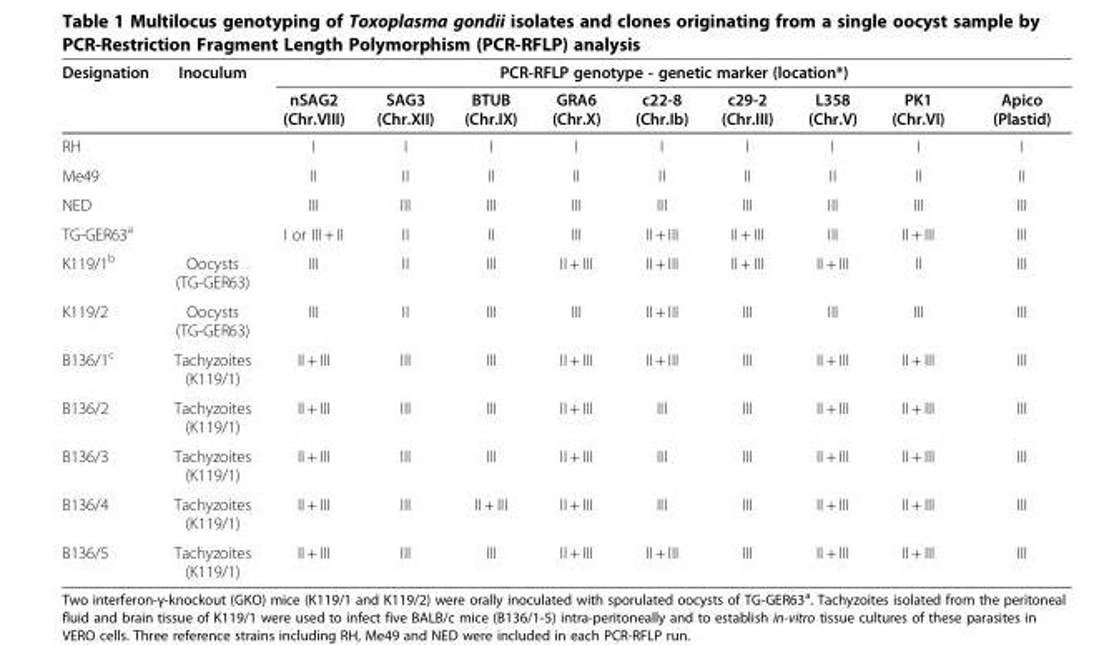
<table><thead><tr><td rowspan="2">Designation</td><td rowspan="2">Inoculum</td><td colspan="9">PCR-RFLP genotype - genetic marker (location*)</td></tr><tr><td>nSAG2 (Chr.VIII)</td><td>SAG3 (Chr.XII)</td><td>BTUB (Chr.IX)</td><td>GRA6 (Chr.X)</td><td>c22-8 (Chr.Ib)</td><td>c29-2 (Chr.III)</td><td>L358 (Chr.V)</td><td>PK1 (Chr.VI)</td><td>Apico (Plastid)</td></tr></thead><tbody><tr><td>RH</td><td></td><td>I</td><td>I</td><td>I</td><td>I</td><td>I</td><td>I</td><td>I</td><td>I</td><td>I</td></tr><tr><td>Me49</td><td></td><td>II</td><td>II</td><td>II</td><td>II</td><td>II</td><td>II</td><td>II</td><td>II</td><td>II</td></tr><tr><td>NED</td><td></td><td>III</td><td>III</td><td>III</td><td>III</td><td>III</td><td>III</td><td>III</td><td>III</td><td>III</td></tr><tr><td>TG-GER63<sup>a</sup></td><td></td><td>I or III + II</td><td>II</td><td>II</td><td>III</td><td>II + III</td><td>II + III</td><td>III</td><td>II + III</td><td>III</td></tr><tr><td>K119/1<sup>b</sup></td><td>Oocysts (TG-GER63)</td><td>III</td><td>II</td><td>III</td><td>II + III</td><td>II + III</td><td>II + III</td><td>II + III</td><td>II</td><td>III</td></tr><tr><td>K119/2</td><td>Oocysts (TG-GER63)</td><td>III</td><td>II</td><td>III</td><td>III</td><td>II + III</td><td>III</td><td>III</td><td>III</td><td>III</td></tr><tr><td>B136/1<sup>c</sup></td><td>Tachyzoites (K119/1)</td><td>II + III</td><td>III</td><td>III</td><td>II + III</td><td>II + III</td><td>III</td><td>II + III</td><td>II + III</td><td>III</td></tr><tr><td>B136/2</td><td>Tachyzoites (K119/1)</td><td>II + III</td><td>III</td><td>III</td><td>II + III</td><td>III</td><td>III</td><td>II + III</td><td>II + III</td><td>III</td></tr><tr><td>B136/3</td><td>Tachyzoites (K119/1)</td><td>II + III</td><td>III</td><td>III</td><td>II + III</td><td>III</td><td>III</td><td>II + III</td><td>II + III</td><td>III</td></tr><tr><td>B136/4</td><td>Tachyzoites (K119/1)</td><td>II + III</td><td>III</td><td>II + III</td><td>II + III</td><td>III</td><td>III</td><td>II + III</td><td>II + III</td><td>III</td></tr><tr><td>B136/5</td><td>Tachyzoites (K119/1)</td><td>II + III</td><td>III</td><td>III</td><td>II + III</td><td>II + III</td><td>III</td><td>II + III</td><td>II + III</td><td>III</td></tr></tbody></table>